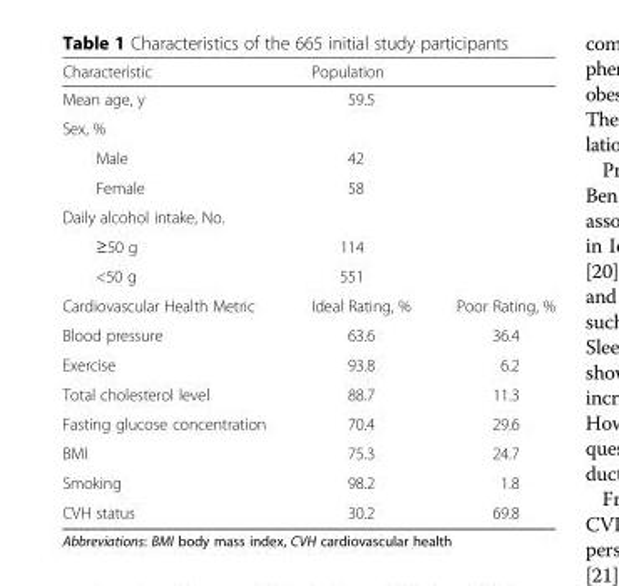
<table><thead><tr><td>Characteristic</td><td colspan="2">Population</td></tr></thead><tbody><tr><td>Mean age, y</td><td colspan="2">59.5</td></tr><tr><td colspan="3">Sex, %</td></tr><tr><td>Male</td><td colspan="2">42</td></tr><tr><td>Female</td><td colspan="2">58</td></tr><tr><td colspan="3">Daily alcohol intake, No.</td></tr><tr><td>≥50 g</td><td colspan="2">114</td></tr><tr><td>&lt;50 g</td><td colspan="2">551</td></tr><tr><td>Cardiovascular Health Metric</td><td>Ideal Rating, %</td><td>Poor Rating, %</td></tr><tr><td>Blood pressure</td><td>63.6</td><td>36.4</td></tr><tr><td>Exercise</td><td>93.8</td><td>6.2</td></tr><tr><td>Total cholesterol level</td><td>88.7</td><td>11.3</td></tr><tr><td>Fasting glucose concentration</td><td>70.4</td><td>29.6</td></tr><tr><td>BMI</td><td>75.3</td><td>24.7</td></tr><tr><td>Smoking</td><td>98.2</td><td>1.8</td></tr><tr><td>CVH status</td><td>30.2</td><td>69.8</td></tr></tbody></table>